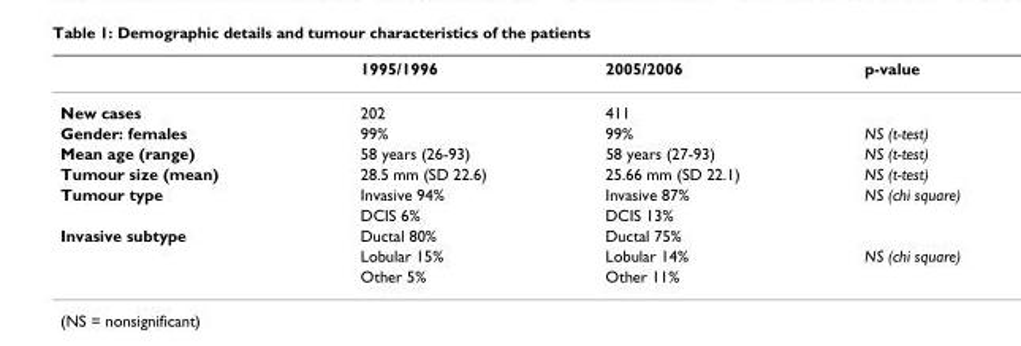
<table><thead><tr><td></td><td>1995/1996</td><td>2005/2006</td><td>p-value</td></tr></thead><tbody><tr><td>New cases</td><td>202</td><td>411</td><td></td></tr><tr><td>Gender: females</td><td>99%</td><td>99%</td><td>NS (t-test)</td></tr><tr><td>Mean age (range)</td><td>58 years (26-93)</td><td>58 years (27-93)</td><td>NS (t-test)</td></tr><tr><td>Tumour size (mean)</td><td>28.5 mm (SD 22.6)</td><td>25.66 mm (SD 22.1)</td><td>NS (t-test)</td></tr><tr><td rowspan="2">Tumour type</td><td>Invasive 94%</td><td>Invasive 87%</td><td>NS (chi square)</td></tr><tr><td>DCIS 6%</td><td>DCIS 13%</td><td></td></tr><tr><td rowspan="3">Invasive subtype</td><td>Ductal 80%</td><td>Ductal 75%</td><td></td></tr><tr><td>Lobular 15%</td><td>Lobular 14%</td><td>NS (chi square)</td></tr><tr><td>Other 5%</td><td>Other 11%</td><td></td></tr></tbody></table>